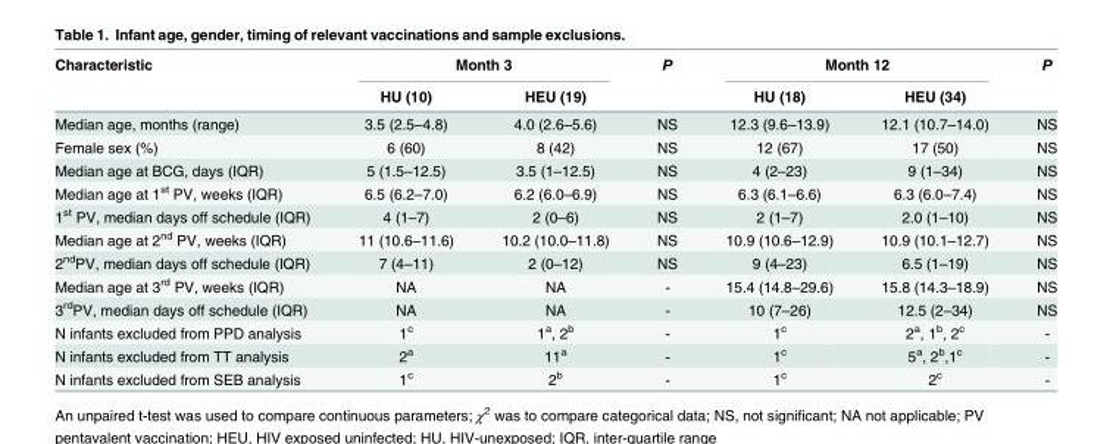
<table><thead><tr><td rowspan="2">Characteristic</td><td colspan="2">Month 3</td><td rowspan="2">P</td><td colspan="2">Month 12</td><td rowspan="2">P</td></tr><tr><td>HU (10)</td><td>HEU (19)</td><td>HU (18)</td><td>HEU (34)</td></tr></thead><tbody><tr><td>Median age, months (range)</td><td>3.5 (2.5–4.8)</td><td>4.0 (2.6–5.6)</td><td>NS</td><td>12.3 (9.6–13.9)</td><td>12.1 (10.7–14.0)</td><td>NS</td></tr><tr><td>Female sex (%)</td><td>6 (60)</td><td>8 (42)</td><td>NS</td><td>12 (67)</td><td>17 (50)</td><td>NS</td></tr><tr><td>Median age at BCG, days (IQR)</td><td>5 (1.5–12.5)</td><td>3.5 (1–12.5)</td><td>NS</td><td>4 (2–23)</td><td>9 (1–34)</td><td>NS</td></tr><tr><td>Median age at 1<sup>st</sup> PV, weeks (IQR)</td><td>6.5 (6.2–7.0)</td><td>6.2 (6.0–6.9)</td><td>NS</td><td>6.3 (6.1–6.6)</td><td>6.3 (6.0–7.4)</td><td>NS</td></tr><tr><td>1<sup>st</sup> PV, median days off schedule (IQR)</td><td>4 (1–7)</td><td>2 (0–6)</td><td>NS</td><td>2 (1–7)</td><td>2.0 (1–10)</td><td>NS</td></tr><tr><td>Median age at 2<sup>nd</sup> PV, weeks (IQR)</td><td>11 (10.6–11.6)</td><td>10.2 (10.0–11.8)</td><td>NS</td><td>10.9 (10.6–12.9)</td><td>10.9 (10.1–12.7)</td><td>NS</td></tr><tr><td>2<sup>nd</sup>PV, median days off schedule (IQR)</td><td>7 (4–11)</td><td>2 (0–12)</td><td>NS</td><td>9 (4–23)</td><td>6.5 (1–19)</td><td>NS</td></tr><tr><td>Median age at 3<sup>rd</sup> PV, weeks (IQR)</td><td>NA</td><td>NA</td><td>-</td><td>15.4 (14.8–29.6)</td><td>15.8 (14.3–18.9)</td><td>NS</td></tr><tr><td>3<sup>rd</sup>PV, median days off schedule (IQR)</td><td>NA</td><td>NA</td><td>-</td><td>10 (7–26)</td><td>12.5 (2–34)</td><td>NS</td></tr><tr><td>N infants excluded from PPD analysis</td><td>1<sup>c</sup></td><td>1<sup>a</sup>, 2<sup>b</sup></td><td>-</td><td>1<sup>c</sup></td><td>2<sup>a</sup>, 1<sup>b</sup>, 2<sup>c</sup></td><td>-</td></tr><tr><td>N infants excluded from TT analysis</td><td>2<sup>a</sup></td><td>11<sup>a</sup></td><td>-</td><td>1<sup>c</sup></td><td>5<sup>a</sup>, 2<sup>b</sup>,1<sup>c</sup></td><td>-</td></tr><tr><td>N infants excluded from SEB analysis</td><td>1<sup>c</sup></td><td>2<sup>b</sup></td><td>-</td><td>1<sup>c</sup></td><td>2<sup>c</sup></td><td>-</td></tr></tbody></table>